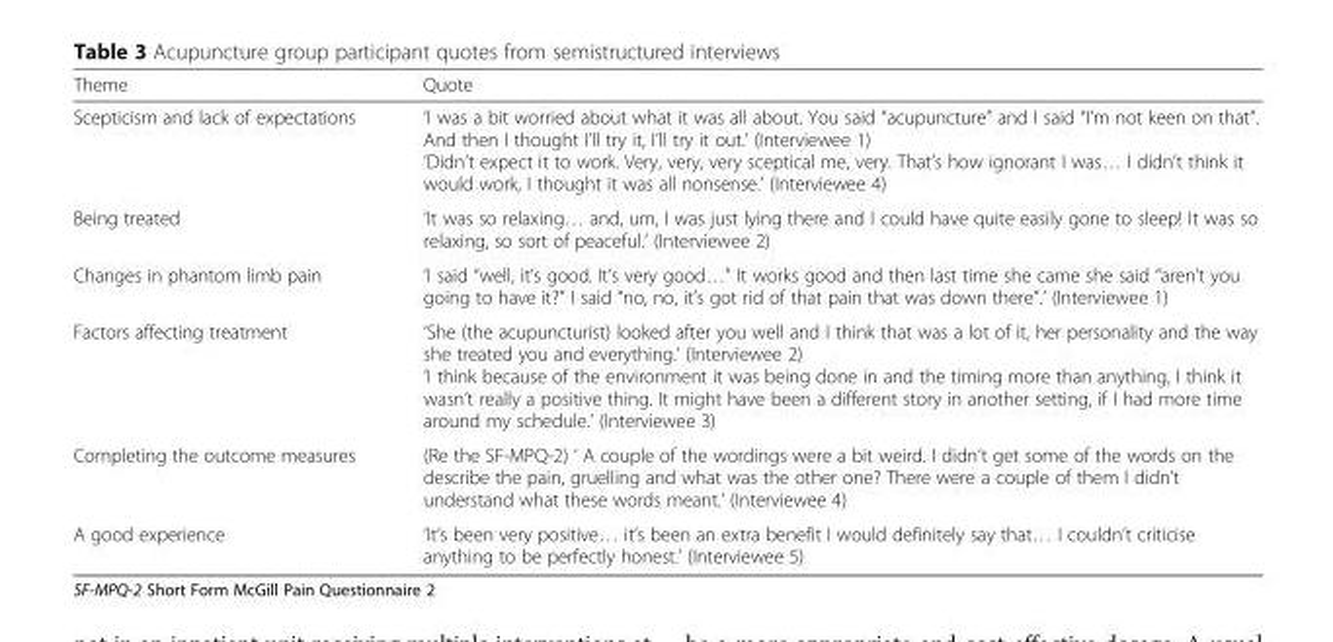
<table><thead><tr><td>Theme</td><td>Quote</td></tr></thead><tbody><tr><td>Scepticism and lack of expectations</td><td>‘I was a bit worried about what it was all about. You said “acupuncture” and I said “I’m not keen on that”. And then I thought I’ll try it, I’ll try it out.’ (Interviewee 1) ‘Didn’t expect it to work. Very, very, very sceptical me, very. That’s how ignorant I was… I didn’t think it would work, I thought it was all nonsense.’ (Interviewee 4)</td></tr><tr><td>Being treated</td><td>‘It was so relaxing… and, um, I was just lying there and I could have quite easily gone to sleep! It was so relaxing, so sort of peaceful.’ (Interviewee 2)</td></tr><tr><td>Changes in phantom limb pain</td><td>‘I said “well, it’s good. It’s very good…” It works good and then last time she came she said “aren’t you going to have it?” I said “no, no, it’s got rid of that pain that was down there”.’ (Interviewee 1)</td></tr><tr><td>Factors affecting treatment</td><td>‘She (the acupuncturist) looked after you well and I think that was a lot of it, her personality and the way she treated you and everything.’ (Interviewee 2) ‘I think because of the environment it was being done in and the timing more than anything, I think it wasn’t really a positive thing. It might have been a different story in another setting, if I had more time around my schedule.’ (Interviewee 3)</td></tr><tr><td>Completing the outcome measures</td><td>(Re the SF-MPQ-2) ‘ A couple of the wordings were a bit weird. I didn’t get some of the words on the describe the pain, gruelling and what was the other one? There were a couple of them I didn’t understand what these words meant.’ (Interviewee 4)</td></tr><tr><td>A good experience</td><td>‘It’s been very positive… it’s been an extra benefit I would definitely say that… I couldn’t criticise anything to be perfectly honest.’ (Interviewee 5)</td></tr></tbody></table>